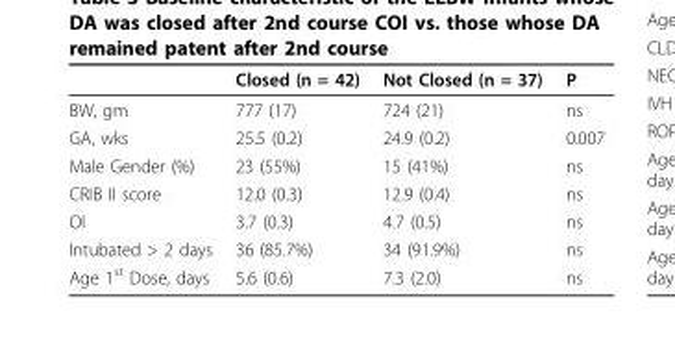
<table><thead><tr><td></td><td>Closed (n = 42)</td><td>Not Closed (n = 37)</td><td>P</td></tr></thead><tbody><tr><td>BW, gm</td><td>777 (17)</td><td>724 (21)</td><td>ns</td></tr><tr><td>GA, wks</td><td>25.5 (0.2)</td><td>24.9 (0.2)</td><td>0.007</td></tr><tr><td>Male Gender (%)</td><td>23 (55%)</td><td>15 (41%)</td><td>ns</td></tr><tr><td>CRIB II score</td><td>12.0 (0.3)</td><td>12.9 (0.4)</td><td>ns</td></tr><tr><td>OI</td><td>3.7 (0.3)</td><td>4.7 (0.5)</td><td>ns</td></tr><tr><td>Intubated &gt; 2 days</td><td>36 (85.7%)</td><td>34 (91.9%)</td><td>ns</td></tr><tr><td>Age 1<sup>st</sup> Dose, days</td><td>5.6 (0.6)</td><td>7.3 (2.0)</td><td>ns</td></tr></tbody></table>